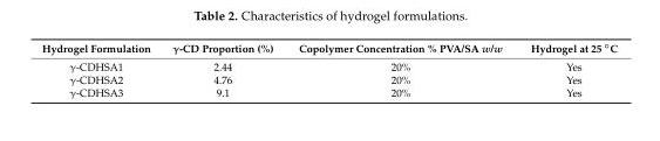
<table><thead><tr><td>Hydrogel Formulation</td><td>γ-CD Proportion (%)</td><td>Copolymer Concentration % PVA/SA w/w</td><td>Hydrogel at 25 ◦C</td></tr></thead><tbody><tr><td>γ-CDHSA1</td><td>2.44</td><td>20%</td><td>Yes</td></tr><tr><td>γ-CDHSA2</td><td>4.76</td><td>20%</td><td>Yes</td></tr><tr><td>γ-CDHSA3</td><td>9.1</td><td>20%</td><td>Yes</td></tr></tbody></table>